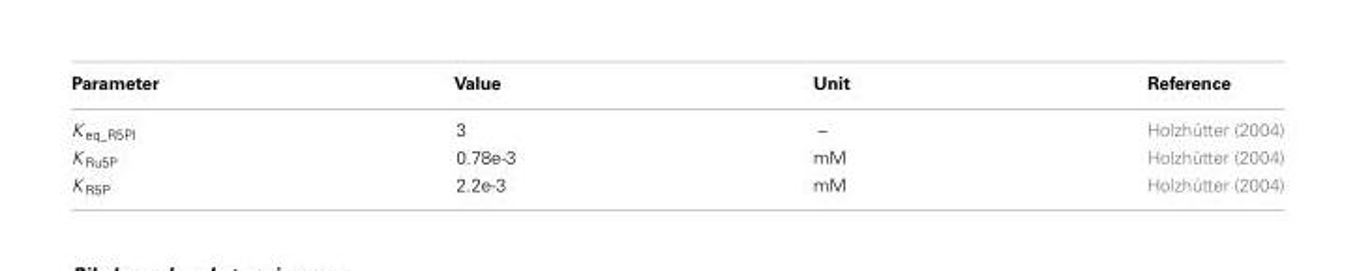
<table><thead><tr><td>Parameter</td><td>Value</td><td>Unit</td><td>Reference</td></tr></thead><tbody><tr><td>K <sub>eq_R5PI</sub></td><td>3</td><td>–</td><td>Holzhütter (2004)</td></tr><tr><td>K <sub>Ru5P</sub></td><td>0.78e-3</td><td>mM</td><td>Holzhütter (2004)</td></tr><tr><td>K <sub>R5P</sub></td><td>2.2e-3</td><td>mM</td><td>Holzhütter (2004)</td></tr></tbody></table>